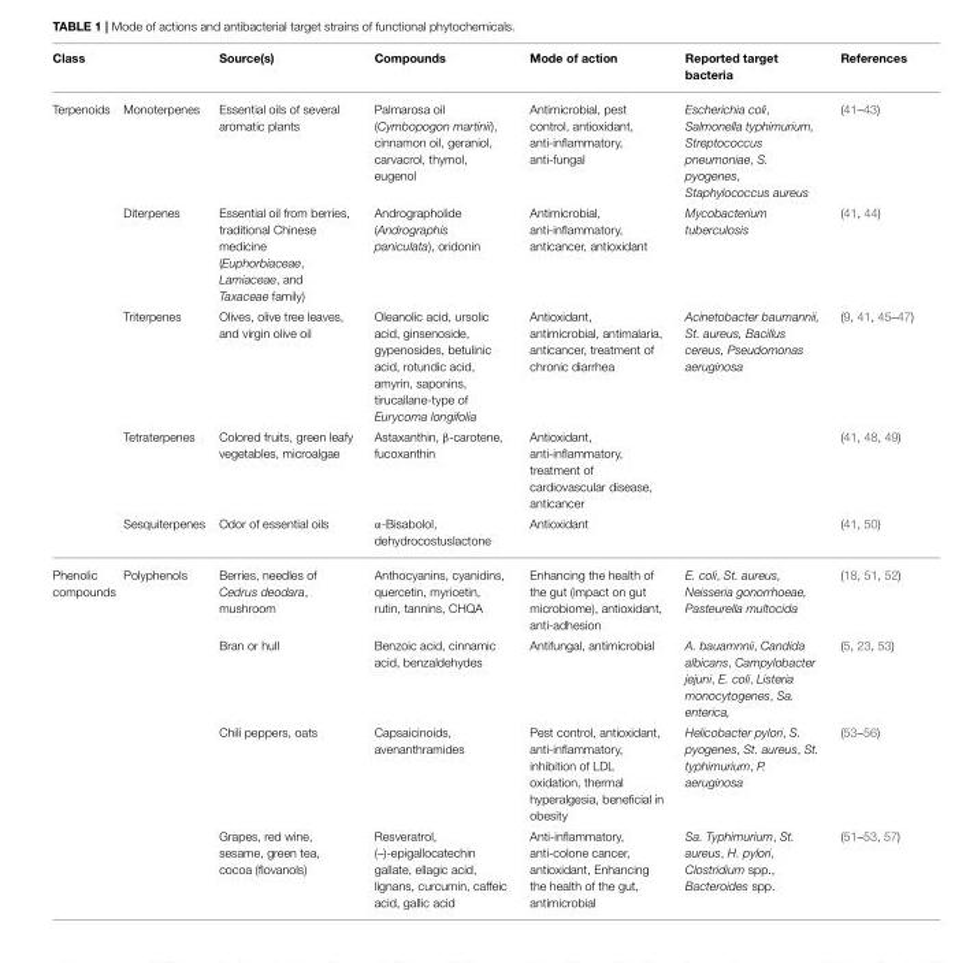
<table><thead><tr><td>Class</td><td></td><td>Source(s)</td><td>Compounds</td><td>Mode of action</td><td>Reported target bacteria</td><td>References</td></tr></thead><tbody><tr><td rowspan="5">Terpenoids</td><td>Monoterpenes</td><td>Essential oils of several aromatic plants</td><td>Palmarosa oil (Cymbopogon martinii), cinnamon oil, geraniol, carvacrol, thymol, eugenol</td><td>Antimicrobial, pest control, antioxidant, anti-inflammatory, anti-fungal</td><td>Escherichia coli, Salmonella typhimurium, Streptococcus pneumoniae, S. pyogenes, Staphylococcus aureus</td><td>(41–43)</td></tr><tr><td>Diterpenes</td><td>Essential oil from berries, traditional Chinese medicine (Euphorbiaceae, Lamiaceae, and Taxaceae family)</td><td>Andrographolide (Andrographis paniculata), oridonin</td><td>Antimicrobial, anti-inflammatory, anticancer, antioxidant</td><td>Mycobacterium tuberculosis</td><td>(41, 44)</td></tr><tr><td>Triterpenes</td><td>Olives, olive tree leaves, and virgin olive oil</td><td>Oleanolic acid, ursolic acid, ginsenoside, gypenosides, betulinic acid, rotundic acid, amyrin, saponins, tirucallane-type of Eurycoma longifolia</td><td>Antioxidant, antimicrobial, antimalaria, anticancer, treatment of chronic diarrhea</td><td>Acinetobacter baumannii, St. aureus, Bacillus cereus, Pseudomonas aeruginosa</td><td>(9, 41, 45–47)</td></tr><tr><td>Tetraterpenes</td><td>Colored fruits, green leafy vegetables, microalgae</td><td>Astaxanthin, β-carotene, fucoxanthin</td><td>Antioxidant, anti-inflammatory, treatment of cardiovascular disease, anticancer</td><td></td><td>(41, 48, 49)</td></tr><tr><td>Sesquiterpenes</td><td>Odor of essential oils</td><td>α-Bisabolol, dehydrocostuslactone</td><td>Antioxidant</td><td></td><td>(41, 50)</td></tr><tr><td rowspan="4">Phenolic compounds</td><td>Polyphenols</td><td>Berries, needles of Cedrus deodara, mushroom</td><td>Anthocyanins, cyanidins, quercetin, myricetin, rutin, tannins, CHQA</td><td>Enhancing the health of the gut (impact on gut microbiome), antioxidant, anti-adhesion</td><td>E. coli, St. aureus, Neisseria gonorrhoeae, Pasteurella multocida</td><td>(18, 51, 52)</td></tr><tr><td></td><td>Bran or hull</td><td>Benzoic acid, cinnamic acid, benzaldehydes</td><td>Antifungal, antimicrobial</td><td>A. bauamnnii, Candida albicans, Campylobacter jejuni, E. coli, Listeria monocytogenes, Sa. enterica,</td><td>(5, 23, 53)</td></tr><tr><td></td><td>Chili peppers, oats</td><td>Capsaicinoids, avenanthramides</td><td>Pest control, antioxidant, anti-inflammatory, inhibition of LDL oxidation, thermal hyperalgesia, beneficial in obesity</td><td>Helicobacter pylori, S. pyogenes, St. aureus, St. typhimurium, P. aeruginosa</td><td>(53–56)</td></tr><tr><td></td><td>Grapes, red wine, sesame, green tea, cocoa (flovanols)</td><td>Resveratrol, (–)-epigallocatechin gallate, ellagic acid, lignans, curcumin, caffeic acid, gallic acid</td><td>Anti-inflammatory, anti-colone cancer, antioxidant, Enhancing the health of the gut, antimicrobial</td><td>Sa. Typhimurium, St. aureus, H. pylori, Clostridium spp., Bacteroides spp.</td><td>(51–53, 57)</td></tr></tbody></table>